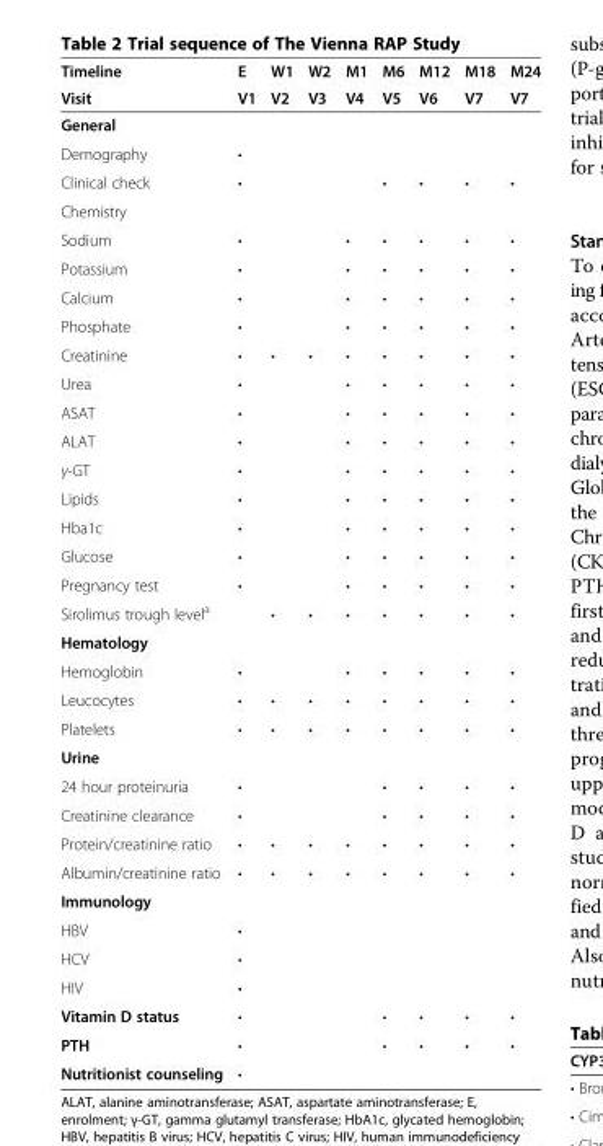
<table><thead><tr><td rowspan="2">Timeline Visit</td><td rowspan="2">E V1</td><td rowspan="2">W1 V2</td><td rowspan="2">W2 V3</td><td rowspan="2">M1 V4</td><td rowspan="2">M6 V5</td><td rowspan="2">M12 V6</td><td rowspan="2">M18 V7</td><td rowspan="2">M24 V7</td></tr><tr></tr></thead><tbody><tr><td colspan="9">General</td></tr><tr><td>Demography</td><td>•</td><td></td><td></td><td></td><td></td><td></td><td></td><td></td></tr><tr><td>Clinical check</td><td>•</td><td></td><td></td><td></td><td>•</td><td>•</td><td>•</td><td>•</td></tr><tr><td colspan="9">Chemistry</td></tr><tr><td>Sodium</td><td>•</td><td></td><td></td><td>•</td><td>•</td><td>•</td><td>•</td><td>•</td></tr><tr><td>Potassium</td><td>•</td><td></td><td></td><td>•</td><td>•</td><td>•</td><td>•</td><td>•</td></tr><tr><td>Calcium</td><td>•</td><td></td><td></td><td>•</td><td>•</td><td>•</td><td>•</td><td>•</td></tr><tr><td>Phosphate</td><td>•</td><td></td><td></td><td>•</td><td>•</td><td>•</td><td>•</td><td>•</td></tr><tr><td>Creatinine</td><td>•</td><td>•</td><td>•</td><td>•</td><td>•</td><td>•</td><td>•</td><td>•</td></tr><tr><td>Urea</td><td>•</td><td></td><td></td><td>•</td><td>•</td><td>•</td><td>•</td><td>•</td></tr><tr><td>ASAT</td><td>•</td><td></td><td></td><td>•</td><td>•</td><td>•</td><td>•</td><td>•</td></tr><tr><td>ALAT</td><td>•</td><td></td><td></td><td>•</td><td>•</td><td>•</td><td>•</td><td>•</td></tr><tr><td>γ-GT</td><td>•</td><td></td><td></td><td>•</td><td>•</td><td>•</td><td>•</td><td>•</td></tr><tr><td>Lipids</td><td>•</td><td></td><td></td><td>•</td><td>•</td><td>•</td><td>•</td><td>•</td></tr><tr><td>Hba1c</td><td>•</td><td></td><td></td><td>•</td><td>•</td><td>•</td><td>•</td><td>•</td></tr><tr><td>Glucose</td><td>•</td><td></td><td></td><td>•</td><td>•</td><td>•</td><td>•</td><td>•</td></tr><tr><td>Pregnancy test</td><td>•</td><td></td><td></td><td>•</td><td>•</td><td>•</td><td>•</td><td>•</td></tr><tr><td>Sirolimus trough level<sup>a</sup></td><td></td><td>•</td><td>•</td><td>•</td><td>•</td><td>•</td><td>•</td><td>•</td></tr><tr><td colspan="9">Hematology</td></tr><tr><td>Hemoglobin</td><td>•</td><td></td><td></td><td>•</td><td>•</td><td>•</td><td>•</td><td>•</td></tr><tr><td>Leucocytes</td><td>•</td><td>•</td><td>•</td><td>•</td><td>•</td><td>•</td><td>•</td><td>•</td></tr><tr><td>Platelets</td><td>•</td><td>•</td><td>•</td><td>•</td><td>•</td><td>•</td><td>•</td><td>•</td></tr><tr><td colspan="9">Urine</td></tr><tr><td>24 hour proteinuria</td><td>•</td><td></td><td></td><td></td><td>•</td><td>•</td><td>•</td><td>•</td></tr><tr><td>Creatinine clearance</td><td>•</td><td></td><td></td><td></td><td>•</td><td>•</td><td>•</td><td>•</td></tr><tr><td>Protein/creatinine ratio</td><td>•</td><td>•</td><td>•</td><td>•</td><td>•</td><td>•</td><td>•</td><td>•</td></tr><tr><td>Albumin/creatinine ratio</td><td>•</td><td>•</td><td>•</td><td>•</td><td>•</td><td>•</td><td>•</td><td>•</td></tr><tr><td colspan="9">Immunology</td></tr><tr><td>HBV</td><td>•</td><td></td><td></td><td></td><td></td><td></td><td></td><td></td></tr><tr><td>HCV</td><td>•</td><td></td><td></td><td></td><td></td><td></td><td></td><td></td></tr><tr><td>HIV</td><td>•</td><td></td><td></td><td></td><td></td><td></td><td></td><td></td></tr><tr><td>Vitamin D status</td><td>•</td><td></td><td></td><td></td><td>•</td><td>•</td><td>•</td><td>•</td></tr><tr><td>PTH</td><td>•</td><td></td><td></td><td></td><td>•</td><td>•</td><td>•</td><td>•</td></tr><tr><td>Nutritionist counseling</td><td>•</td><td></td><td></td><td></td><td></td><td></td><td></td><td></td></tr></tbody></table>